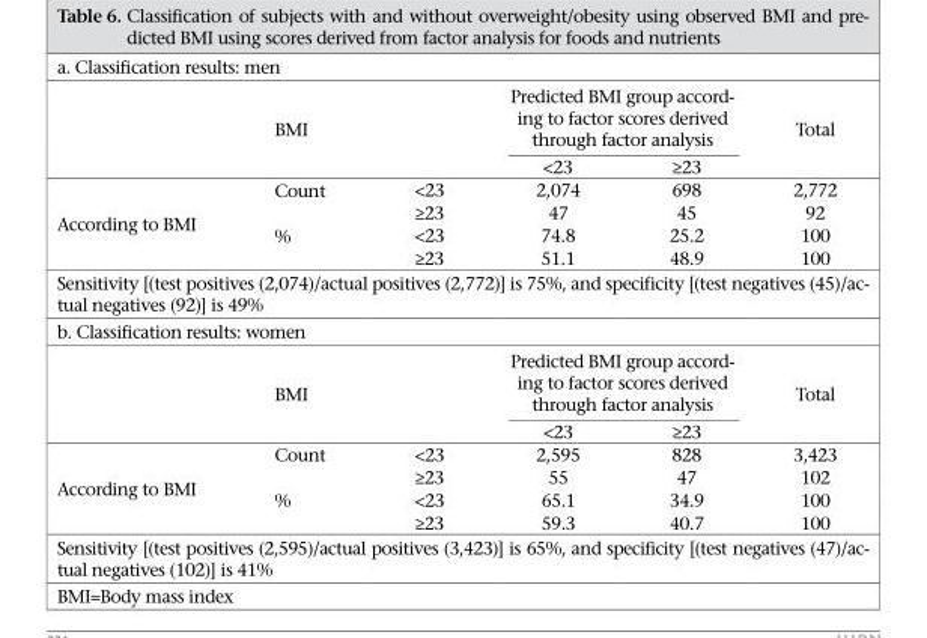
<table><tbody><tr><td colspan="6">a. Classification results: men</td></tr><tr><td rowspan="2"></td><td rowspan="2">BMI</td><td rowspan="2"></td><td colspan="2">Predicted BMI group accord- ing to factor scores derived through factor analysis</td><td rowspan="2">Total</td></tr><tr><td>&lt;23</td><td>≥23</td></tr><tr><td rowspan="4">According to BMI</td><td>Count</td><td>&lt;23</td><td>2,074</td><td>698</td><td>2,772</td></tr><tr><td></td><td>≥23</td><td>47</td><td>45</td><td>92</td></tr><tr><td>%</td><td>&lt;23</td><td>74.8</td><td>25.2</td><td>100</td></tr><tr><td></td><td>≥23</td><td>51.1</td><td>48.9</td><td>100</td></tr><tr><td colspan="6">Sensitivity [(test positives (2,074)/actual positives (2,772)] is 75%, and specificity [(test negatives (45)/ac- tual negatives (92)] is 49%</td></tr><tr><td colspan="6">b. Classification results: women</td></tr><tr><td rowspan="2"></td><td rowspan="2">BMI</td><td rowspan="2"></td><td colspan="2">Predicted BMI group accord- ing to factor scores derived through factor analysis</td><td rowspan="2">Total</td></tr><tr><td>&lt;23</td><td>≥23</td></tr><tr><td rowspan="4">According to BMI</td><td>Count</td><td>&lt;23</td><td>2,595</td><td>828</td><td>3,423</td></tr><tr><td></td><td>≥23</td><td>55</td><td>47</td><td>102</td></tr><tr><td>%</td><td>&lt;23</td><td>65.1</td><td>34.9</td><td>100</td></tr><tr><td></td><td>≥23</td><td>59.3</td><td>40.7</td><td>100</td></tr><tr><td colspan="6">Sensitivity [(test positives (2,595)/actual positives (3,423)] is 65%, and specificity [(test negatives (47)/ac- tual negatives (102)] is 41%</td></tr></tbody></table>